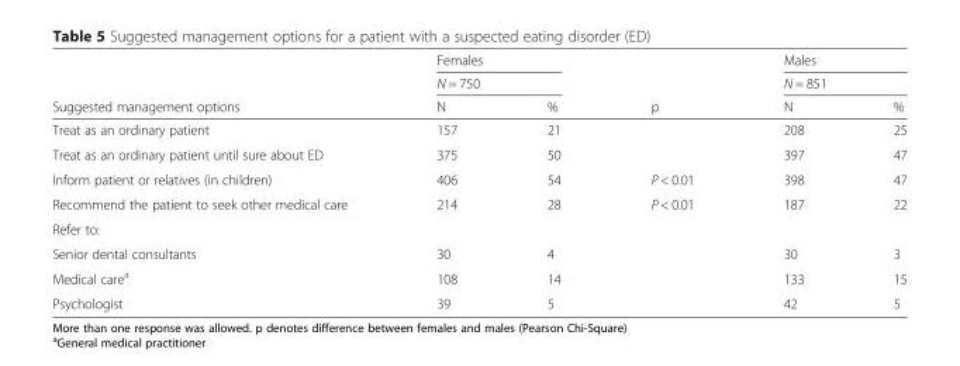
<table><thead><tr><td rowspan="3">Suggested management options</td><td rowspan="2" colspan="2">Females N = 750</td><td rowspan="3">p</td><td rowspan="2" colspan="2">Males N = 851</td></tr><tr></tr><tr><td>N</td><td>%</td><td>N</td><td>%</td></tr></thead><tbody><tr><td>Treat as an ordinary patient</td><td>157</td><td>21</td><td></td><td>208</td><td>25</td></tr><tr><td>Treat as an ordinary patient until sure about ED</td><td>375</td><td>50</td><td></td><td>397</td><td>47</td></tr><tr><td>Inform patient or relatives (in children)</td><td>406</td><td>54</td><td>P &lt; 0.01</td><td>398</td><td>47</td></tr><tr><td>Recommend the patient to seek other medical care</td><td>214</td><td>28</td><td>P &lt; 0.01</td><td>187</td><td>22</td></tr><tr><td colspan="6">Refer to:</td></tr><tr><td>Senior dental consultants</td><td>30</td><td>4</td><td></td><td>30</td><td>3</td></tr><tr><td>Medical care<sup>a</sup></td><td>108</td><td>14</td><td></td><td>133</td><td>15</td></tr><tr><td>Psychologist</td><td>39</td><td>5</td><td></td><td>42</td><td>5</td></tr></tbody></table>